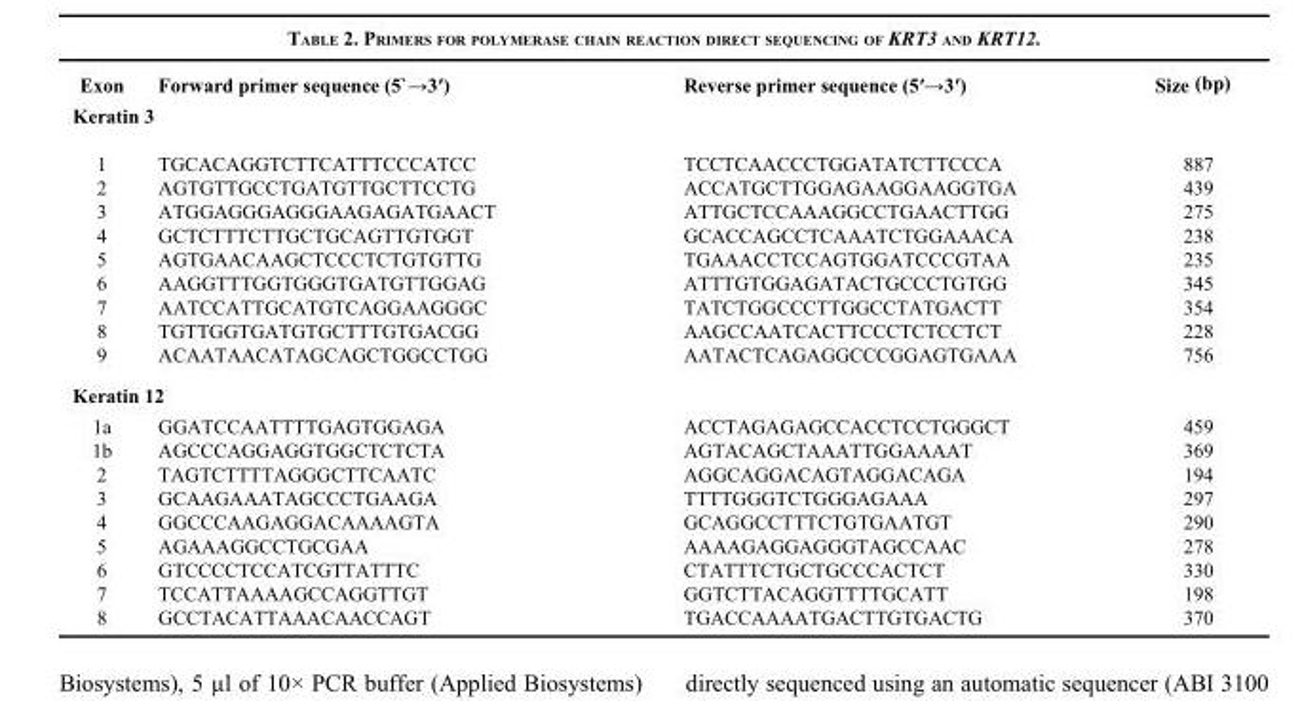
<table><thead><tr><td>Exon</td><td>Forward primer sequence (5`→3′)</td><td>Reverse primer sequence (5′→3′)</td><td>Size (bp)</td></tr></thead><tbody><tr><td colspan="4">Keratin 3</td></tr><tr><td>1</td><td>TGCACAGGTCTTCATTTCCCATCC</td><td>TCCTCAACCCTGGATATCTTCCCA</td><td>887</td></tr><tr><td>2</td><td>AGTGTTGCCTGATGTTGCTTCCTG</td><td>ACCATGCTTGGAGAAGGAAGGTGA</td><td>439</td></tr><tr><td>3</td><td>ATGGAGGGAGGGAAGAGATGAACT</td><td>ATTGCTCCAAAGGCCTGAACTTGG</td><td>275</td></tr><tr><td>4</td><td>GCTCTTTCTTGCTGCAGTTGTGGT</td><td>GCACCAGCCTCAAATCTGGAAACA</td><td>238</td></tr><tr><td>5</td><td>AGTGAACAAGCTCCCTCTGTGTTG</td><td>TGAAACCTCCAGTGGATCCCGTAA</td><td>235</td></tr><tr><td>6</td><td>AAGGTTTGGTGGGTGATGTTGGAG</td><td>ATTTGTGGAGATACTGCCCTGTGG</td><td>345</td></tr><tr><td>7</td><td>AATCCATTGCATGTCAGGAAGGGC</td><td>TATCTGGCCCTTGGCCTATGACTT</td><td>354</td></tr><tr><td>8</td><td>TGTTGGTGATGTGCTTTGTGACGG</td><td>AAGCCAATCACTTCCCTCTCCTCT</td><td>228</td></tr><tr><td>9</td><td>ACAATAACATAGCAGCTGGCCTGG</td><td>AATACTCAGAGGCCCGGAGTGAAA</td><td>756</td></tr><tr><td colspan="4">Keratin 12</td></tr><tr><td>1a</td><td>GGATCCAATTTTGAGTGGAGA</td><td>ACCTAGAGAGCCACCTCCTGGGCT</td><td>459</td></tr><tr><td>1b</td><td>AGCCCAGGAGGTGGCTCTCTA</td><td>AGTACAGCTAAATTGGAAAAT</td><td>369</td></tr><tr><td>2</td><td>TAGTCTTTTAGGGCTTCAATC</td><td>AGGCAGGACAGTAGGACAGA</td><td>194</td></tr><tr><td>3</td><td>GCAAGAAATAGCCCTGAAGA</td><td>TTTTGGGTCTGGGAGAAA</td><td>297</td></tr><tr><td>4</td><td>GGCCCAAGAGGACAAAAGTA</td><td>GCAGGCCTTTCTGTGAATGT</td><td>290</td></tr><tr><td>5</td><td>AGAAAGGCCTGCGAA</td><td>AAAAGAGGAGGGTAGCCAAC</td><td>278</td></tr><tr><td>6</td><td>GTCCCCTCCATCGTTATTTC</td><td>CTATTTCTGCTGCCCACTCT</td><td>330</td></tr><tr><td>7</td><td>TCCATTAAAAGCCAGGTTGT</td><td>GGTCTTACAGGTTTTGCATT</td><td>198</td></tr><tr><td>8</td><td>GCCTACATTAAACAACCAGT</td><td>TGACCAAAATGACTTGTGACTG</td><td>370</td></tr></tbody></table>